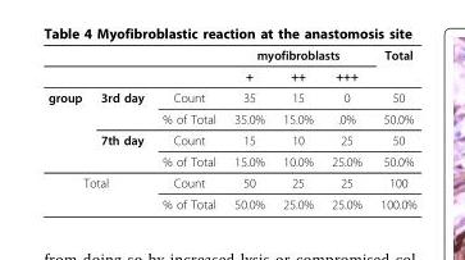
<table><thead><tr><td rowspan="2"></td><td rowspan="2"></td><td rowspan="2"></td><td colspan="3">myofibroblasts</td><td rowspan="2">Total</td></tr><tr><td>+</td><td>++</td><td>+++</td></tr></thead><tbody><tr><td rowspan="4">group</td><td>3rd day</td><td>Count</td><td>35</td><td>15</td><td>0</td><td>50</td></tr><tr><td></td><td>% of Total</td><td>35.0%</td><td>15.0%</td><td>.0%</td><td>50.0%</td></tr><tr><td>7th day</td><td>Count</td><td>15</td><td>10</td><td>25</td><td>50</td></tr><tr><td></td><td>% of Total</td><td>15.0%</td><td>10.0%</td><td>25.0%</td><td>50.0%</td></tr><tr><td colspan="2">Total</td><td>Count</td><td>50</td><td>25</td><td>25</td><td>100</td></tr><tr><td></td><td></td><td>% of Total</td><td>50.0%</td><td>25.0%</td><td>25.0%</td><td>100.0%</td></tr></tbody></table>